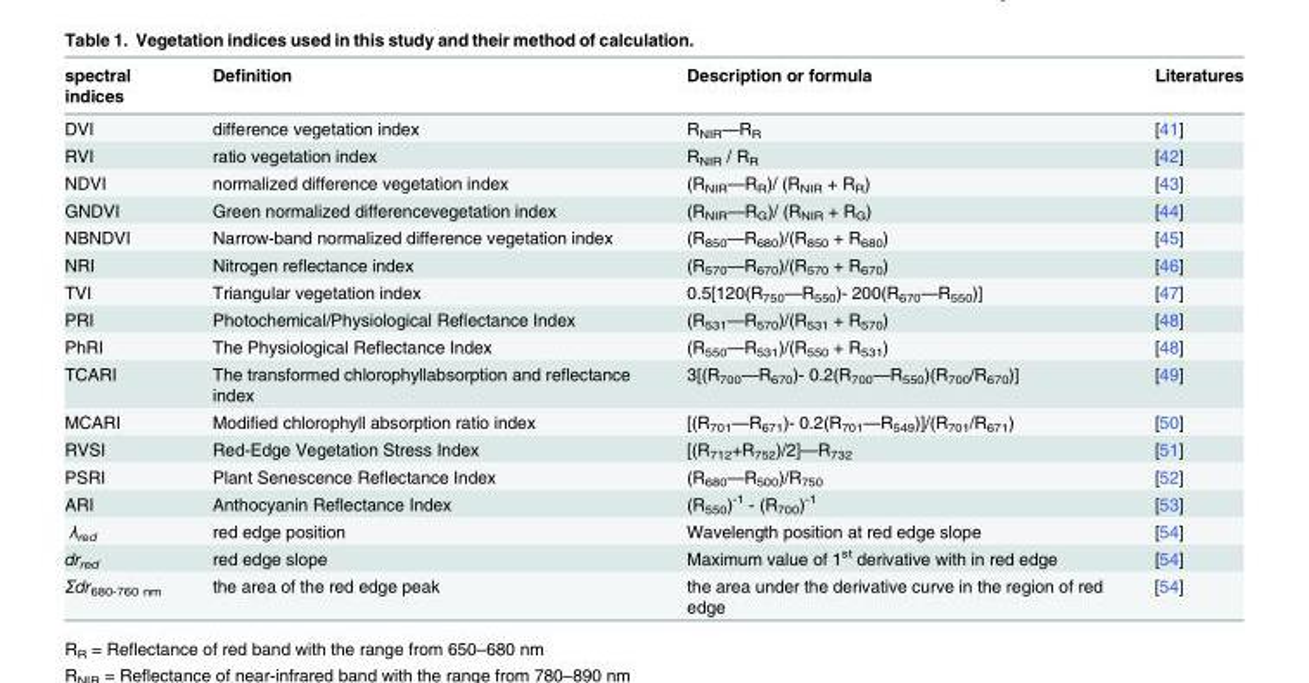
<table><thead><tr><td>spectral indices</td><td>Definition</td><td>Description or formula</td><td>Literatures</td></tr></thead><tbody><tr><td>DVI</td><td>difference vegetation index</td><td>R<sub>NIR</sub>—R<sub>R</sub></td><td>[41]</td></tr><tr><td>RVI</td><td>ratio vegetation index</td><td>R<sub>NIR</sub> / R<sub>R</sub></td><td>[42]</td></tr><tr><td>NDVI</td><td>normalized difference vegetation index</td><td>(R<sub>NIR</sub>—R<sub>R</sub>)/ (R<sub>NIR</sub> + R<sub>R</sub>)</td><td>[43]</td></tr><tr><td>GNDVI</td><td>Green normalized differencevegetation index</td><td>(R<sub>NIR</sub>—R<sub>G</sub>)/ (R<sub>NIR</sub> + R<sub>G</sub>)</td><td>[44]</td></tr><tr><td>NBNDVI</td><td>Narrow-band normalized difference vegetation index</td><td>(R<sub>850</sub>—R<sub>680</sub>)/(R<sub>850</sub> + R<sub>680</sub>)</td><td>[45]</td></tr><tr><td>NRI</td><td>Nitrogen reflectance index</td><td>(R<sub>570</sub>—R<sub>670</sub>)/(R<sub>570</sub> + R<sub>670</sub>)</td><td>[46]</td></tr><tr><td>TVI</td><td>Triangular vegetation index</td><td>0.5[120(R<sub>750</sub>—R<sub>550</sub>)- 200(R<sub>670</sub>—R<sub>550</sub>)]</td><td>[47]</td></tr><tr><td>PRI</td><td>Photochemical/Physiological Reflectance Index</td><td>(R<sub>531</sub>—R<sub>570</sub>)/(R<sub>531</sub> + R<sub>570</sub>)</td><td>[48]</td></tr><tr><td>PhRI</td><td>The Physiological Reflectance Index</td><td>(R<sub>550</sub>—R<sub>531</sub>)/(R<sub>550</sub> + R<sub>531</sub>)</td><td>[48]</td></tr><tr><td>TCARI</td><td>The transformed chlorophyllabsorption and reflectance index</td><td>3[(R<sub>700</sub>—R<sub>670</sub>)- 0.2(R<sub>700</sub>—R<sub>550</sub>)(R<sub>700</sub>/R<sub>670</sub>)]</td><td>[49]</td></tr><tr><td>MCARI</td><td>Modified chlorophyll absorption ratio index</td><td>[(R<sub>701</sub>—R<sub>671</sub>)- 0.2(R<sub>701</sub>—R<sub>549</sub>)]/(R<sub>701</sub>/R<sub>671</sub>)</td><td>[50]</td></tr><tr><td>RVSI</td><td>Red-Edge Vegetation Stress Index</td><td>[(R<sub>712</sub>+R<sub>752</sub>)/2]—R<sub>732</sub></td><td>[51]</td></tr><tr><td>PSRI</td><td>Plant Senescence Reflectance Index</td><td>(R<sub>680</sub>—R<sub>500</sub>)/R<sub>750</sub></td><td>[52]</td></tr><tr><td>ARI</td><td>Anthocyanin Reflectance Index</td><td>(R<sub>550</sub>)<sup>-1</sup> - (R<sub>700</sub>)<sup>-1</sup></td><td>[53]</td></tr><tr><td>λ<sub>red</sub></td><td>red edge position</td><td>Wavelength position at red edge slope</td><td>[54]</td></tr><tr><td>dr<sub>red</sub></td><td>red edge slope</td><td>Maximum value of 1<sup>st</sup> derivative with in red edge</td><td>[54]</td></tr><tr><td>Σdr<sub>680-760 nm</sub></td><td>the area of the red edge peak</td><td>the area under the derivative curve in the region of red edge</td><td>[54]</td></tr></tbody></table>